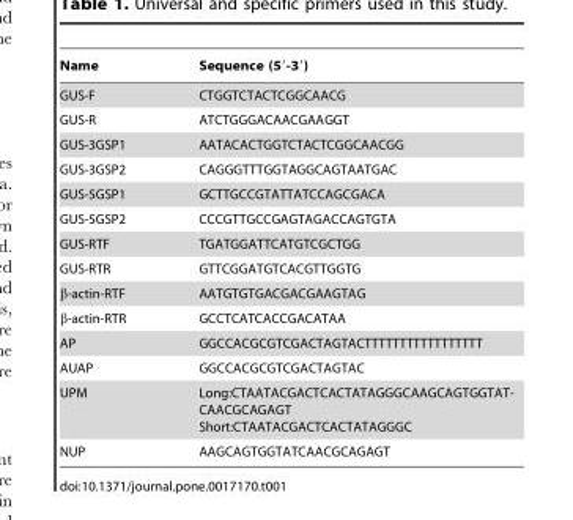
<table><thead><tr><td>Name</td><td>Sequence (5′-3′)</td></tr></thead><tbody><tr><td>GUS-F</td><td>CTGGTCTACTCGGCAACG</td></tr><tr><td>GUS-R</td><td>ATCTGGGACAACGAAGGT</td></tr><tr><td>GUS-3GSP1</td><td>AATACACTGGTCTACTCGGCAACGG</td></tr><tr><td>GUS-3GSP2</td><td>CAGGGTTTGGTAGGCAGTAATGAC</td></tr><tr><td>GUS-5GSP1</td><td>GCTTGCCGTATTATCCAGCGACA</td></tr><tr><td>GUS-5GSP2</td><td>CCCGTTGCCGAGTAGACCAGTGTA</td></tr><tr><td>GUS-RTF</td><td>TGATGGATTCATGTCGCTGG</td></tr><tr><td>GUS-RTR</td><td>GTTCGGATGTCACGTTGGTG</td></tr><tr><td>β-actin-RTF</td><td>AATGTGTGACGACGAAGTAG</td></tr><tr><td>β-actin-RTR</td><td>GCCTCATCACCGACATAA</td></tr><tr><td>AP</td><td>GGCCACGCGTCGACTAGTACTTTTTTTTTTTTTTTTT</td></tr><tr><td>AUAP</td><td>GGCCACGCGTCGACTAGTAC</td></tr><tr><td>UPM</td><td>Long:CTAATACGACTCACTATAGGGCAAGCAGTGGTAT- CAACGCAGAGT Short:CTAATACGACTCACTATAGGGC</td></tr><tr><td>NUP</td><td>AAGCAGTGGTATCAACGCAGAGT</td></tr></tbody></table>